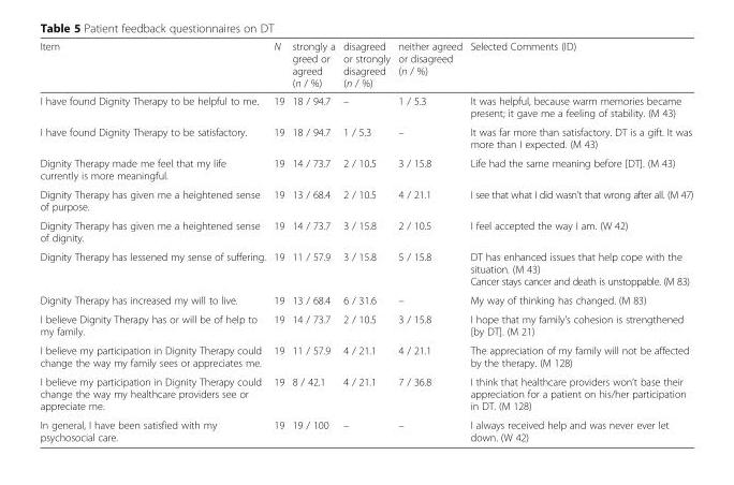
<table><thead><tr><td>Item</td><td>N</td><td>strongly a greed or agreed (n / %)</td><td>disagreed or strongly disagreed (n / %)</td><td>neither agreed or disagreed (n / %)</td><td>Selected Comments (ID)</td></tr></thead><tbody><tr><td>I have found Dignity Therapy to be helpful to me.</td><td>19</td><td>18 / 94.7</td><td>–</td><td>1 / 5.3</td><td>It was helpful, because warm memories became present; it gave me a feeling of stability. (M 43)</td></tr><tr><td>I have found Dignity Therapy to be satisfactory.</td><td>19</td><td>18 / 94.7</td><td>1 / 5.3</td><td>–</td><td>It was far more than satisfactory. DT is a gift. It was more than I expected. (M 43)</td></tr><tr><td>Dignity Therapy made me feel that my life currently is more meaningful.</td><td>19</td><td>14 / 73.7</td><td>2 / 10.5</td><td>3 / 15.8</td><td>Life had the same meaning before [DT]. (M 43)</td></tr><tr><td>Dignity Therapy has given me a heightened sense of purpose.</td><td>19</td><td>13 / 68.4</td><td>2 / 10.5</td><td>4 / 21.1</td><td>I see that what I did wasn’t that wrong after all. (M 47)</td></tr><tr><td>Dignity Therapy has given me a heightened sense of dignity.</td><td>19</td><td>14 / 73.7</td><td>3 / 15.8</td><td>2 / 10.5</td><td>I feel accepted the way I am. (W 42)</td></tr><tr><td>Dignity Therapy has lessened my sense of suffering.</td><td>19</td><td>11 / 57.9</td><td>3 / 15.8</td><td>5 / 15.8</td><td>DT has enhanced issues that help cope with the situation. (M 43) Cancer stays cancer and death is unstoppable. (M 83)</td></tr><tr><td>Dignity Therapy has increased my will to live.</td><td>19</td><td>13 / 68.4</td><td>6 / 31.6</td><td>–</td><td>My way of thinking has changed. (M 83)</td></tr><tr><td>I believe Dignity Therapy has or will be of help to my family.</td><td>19</td><td>14 / 73.7</td><td>2 / 10.5</td><td>3 / 15.8</td><td>I hope that my family’s cohesion is strengthened [by DT]. (M 21)</td></tr><tr><td>I believe my participation in Dignity Therapy could change the way my family sees or appreciates me.</td><td>19</td><td>11 / 57.9</td><td>4 / 21.1</td><td>4 / 21.1</td><td>The appreciation of my family will not be affected by the therapy. (M 128)</td></tr><tr><td>I believe my participation in Dignity Therapy could change the way my healthcare providers see or appreciate me.</td><td>19</td><td>8 / 42.1</td><td>4 / 21.1</td><td>7 / 36.8</td><td>I think that healthcare providers won’t base their appreciation for a patient on his/her participation in DT. (M 128)</td></tr><tr><td>In general, I have been satisfied with my psychosocial care.</td><td>19</td><td>19 / 100</td><td>–</td><td>–</td><td>I always received help and was never ever let down. (W 42)</td></tr></tbody></table>